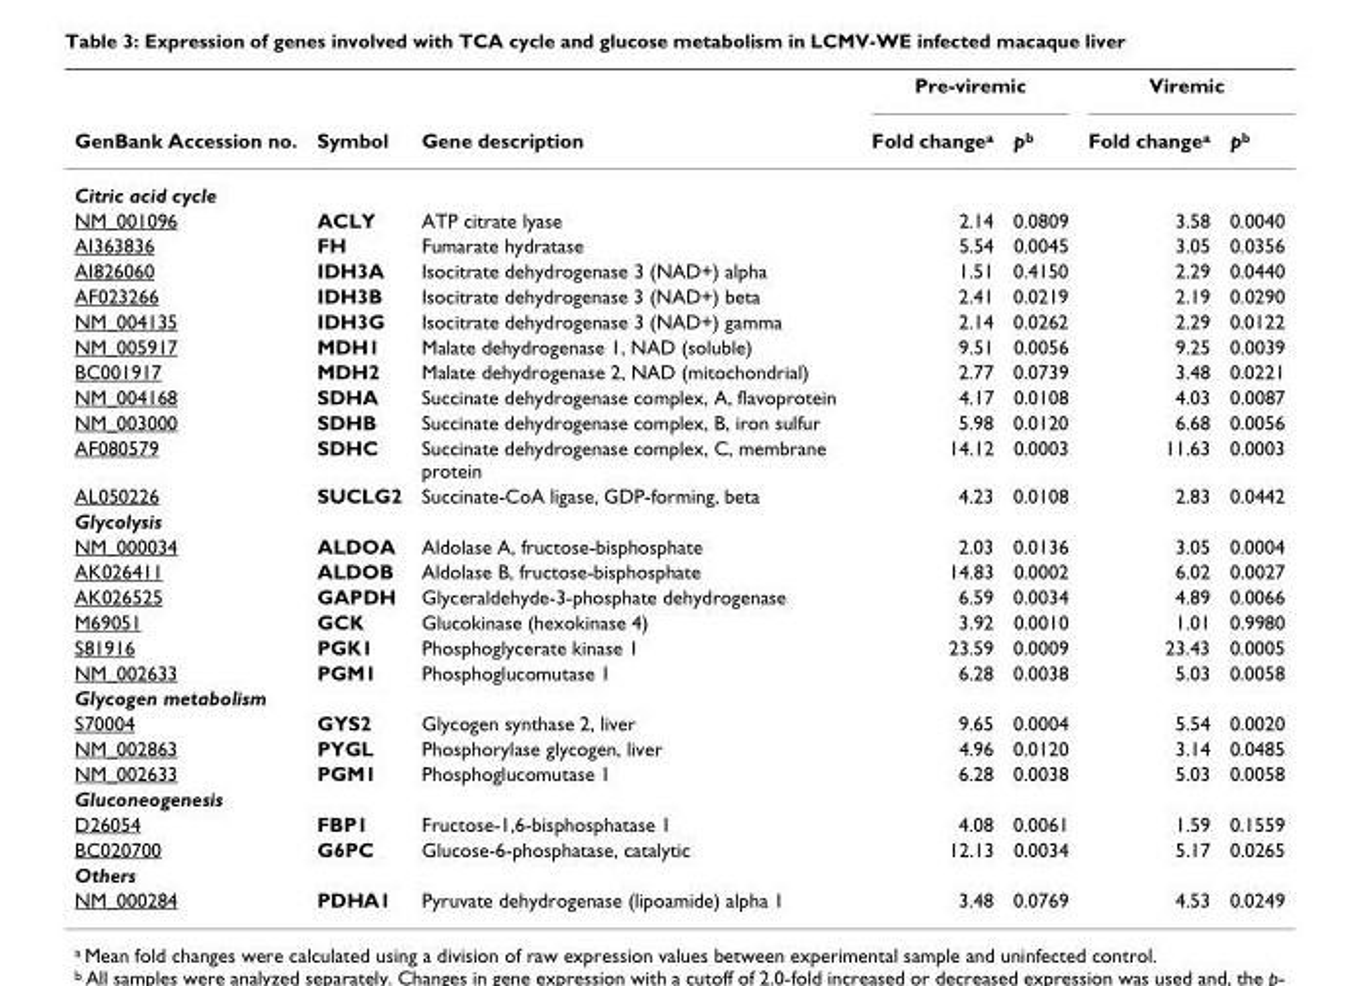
<table><thead><tr><td rowspan="2">GenBank Accession no.</td><td rowspan="2">Symbol</td><td rowspan="2">Gene description</td><td colspan="2">Pre-viremic</td><td colspan="2">Viremic</td></tr><tr><td>Fold change<sup>a</sup></td><td>p<sup>b</sup></td><td>Fold change<sup>a</sup></td><td>p<sup>b</sup></td></tr></thead><tbody><tr><td colspan="7">Citric acid cycle</td></tr><tr><td>NM_001096</td><td>ACLY</td><td>ATP citrate lyase</td><td>2.14</td><td>0.0809</td><td>3.58</td><td>0.0040</td></tr><tr><td>AI363836</td><td>FH</td><td>Fumarate hydratase</td><td>5.54</td><td>0.0045</td><td>3.05</td><td>0.0356</td></tr><tr><td>AI826060</td><td>IDH3A</td><td>Isocitrate dehydrogenase 3 (NAD+) alpha</td><td>1.51</td><td>0.4150</td><td>2.29</td><td>0.0440</td></tr><tr><td>AF023266</td><td>IDH3B</td><td>Isocitrate dehydrogenase 3 (NAD+) beta</td><td>2.41</td><td>0.0219</td><td>2.19</td><td>0.0290</td></tr><tr><td>NM_004135</td><td>IDH3G</td><td>Isocitrate dehydrogenase 3 (NAD+) gamma</td><td>2.14</td><td>0.0262</td><td>2.29</td><td>0.0122</td></tr><tr><td>NM_005917</td><td>MDH1</td><td>Malate dehydrogenase 1, NAD (soluble)</td><td>9.51</td><td>0.0056</td><td>9.25</td><td>0.0039</td></tr><tr><td>BC001917</td><td>MDH2</td><td>Malate dehydrogenase 2, NAD (mitochondrial)</td><td>2.77</td><td>0.0739</td><td>3.48</td><td>0.0221</td></tr><tr><td>NM_004168</td><td>SDHA</td><td>Succinate dehydrogenase complex, A, flavoprotein</td><td>4.17</td><td>0.0108</td><td>4.03</td><td>0.0087</td></tr><tr><td>NM_003000</td><td>SDHB</td><td>Succinate dehydrogenase complex, B, iron sulfur</td><td>5.98</td><td>0.0120</td><td>6.68</td><td>0.0056</td></tr><tr><td>AF080579</td><td>SDHC</td><td>Succinate dehydrogenase complex, C, membrane protein</td><td>14.12</td><td>0.0003</td><td>11.63</td><td>0.0003</td></tr><tr><td>AL050226</td><td>SUCLG2</td><td>Succinate-CoA ligase, GDP-forming, beta</td><td>4.23</td><td>0.0108</td><td>2.83</td><td>0.0442</td></tr><tr><td colspan="7">Glycolysis</td></tr><tr><td>NM_000034</td><td>ALDOA</td><td>Aldolase A, fructose-bisphosphate</td><td>2.03</td><td>0.0136</td><td>3.05</td><td>0.0004</td></tr><tr><td>AK026411</td><td>ALDOB</td><td>Aldolase B, fructose-bisphosphate</td><td>14.83</td><td>0.0002</td><td>6.02</td><td>0.0027</td></tr><tr><td>AK026525</td><td>GAPDH</td><td>Glyceraldehyde-3-phosphate dehydrogenase</td><td>6.59</td><td>0.0034</td><td>4.89</td><td>0.0066</td></tr><tr><td>M69051</td><td>GCK</td><td>Glucokinase (hexokinase 4)</td><td>3.92</td><td>0.0010</td><td>1.01</td><td>0.9980</td></tr><tr><td>S81916</td><td>PGK1</td><td>Phosphoglycerate kinase 1</td><td>23.59</td><td>0.0009</td><td>23.43</td><td>0.0005</td></tr><tr><td>NM_002633</td><td>PGM1</td><td>Phosphoglucomutase 1</td><td>6.28</td><td>0.0038</td><td>5.03</td><td>0.0058</td></tr><tr><td colspan="7">Glycogen metabolism</td></tr><tr><td>S70004</td><td>GYS2</td><td>Glycogen synthase 2, liver</td><td>9.65</td><td>0.0004</td><td>5.54</td><td>0.0020</td></tr><tr><td>NM_002863</td><td>PYGL</td><td>Phosphorylase glycogen, liver</td><td>4.96</td><td>0.0120</td><td>3.14</td><td>0.0485</td></tr><tr><td>NM_002633</td><td>PGM1</td><td>Phosphoglucomutase 1</td><td>6.28</td><td>0.0038</td><td>5.03</td><td>0.0058</td></tr><tr><td colspan="7">Gluconeogenesis</td></tr><tr><td>D26054</td><td>FBP1</td><td>Fructose-1,6-bisphosphatase 1</td><td>4.08</td><td>0.0061</td><td>1.59</td><td>0.1559</td></tr><tr><td>BC020700</td><td>G6PC</td><td>Glucose-6-phosphatase, catalytic</td><td>12.13</td><td>0.0034</td><td>5.17</td><td>0.0265</td></tr><tr><td colspan="7">Others</td></tr><tr><td>NM_000284</td><td>PDHA1</td><td>Pyruvate dehydrogenase (lipoamide) alpha 1</td><td>3.48</td><td>0.0769</td><td>4.53</td><td>0.0249</td></tr></tbody></table>